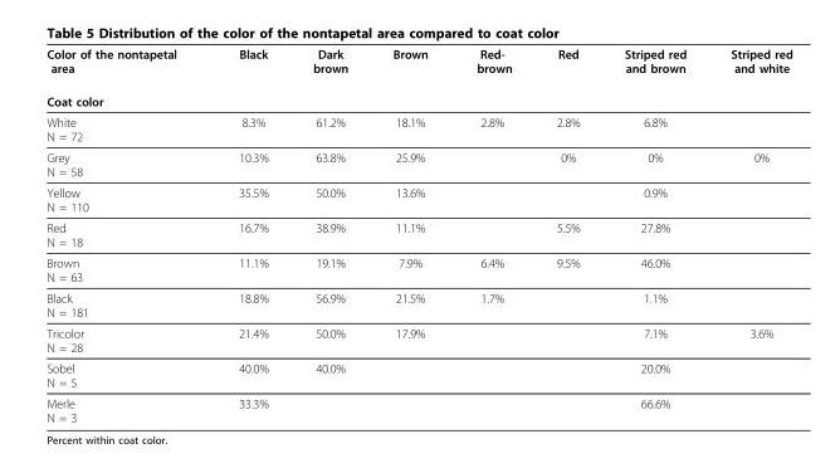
<table><thead><tr><td>Color of the nontapetal area</td><td>Black</td><td>Dark brown</td><td>Brown</td><td>Red- brown</td><td>Red</td><td>Striped red and brown</td><td>Striped red and white</td></tr><tr><td colspan="8">Coat color</td></tr></thead><tbody><tr><td>White N = 72</td><td>8.3%</td><td>61.2%</td><td>18.1%</td><td>2.8%</td><td>2.8%</td><td>6.8%</td><td></td></tr><tr><td>Grey N = 58</td><td>10.3%</td><td>63.8%</td><td>25.9%</td><td></td><td>0%</td><td>0%</td><td>0%</td></tr><tr><td>Yellow N = 110</td><td>35.5%</td><td>50.0%</td><td>13.6%</td><td></td><td></td><td>0.9%</td><td></td></tr><tr><td>Red N = 18</td><td>16.7%</td><td>38.9%</td><td>11.1%</td><td></td><td>5.5%</td><td>27.8%</td><td></td></tr><tr><td>Brown N = 63</td><td>11.1%</td><td>19.1%</td><td>7.9%</td><td>6.4%</td><td>9.5%</td><td>46.0%</td><td></td></tr><tr><td>Black N = 181</td><td>18.8%</td><td>56.9%</td><td>21.5%</td><td>1.7%</td><td></td><td>1.1%</td><td></td></tr><tr><td>Tricolor N = 28</td><td>21.4%</td><td>50.0%</td><td>17.9%</td><td></td><td></td><td>7.1%</td><td>3.6%</td></tr><tr><td>Sobel N = 5</td><td>40.0%</td><td>40.0%</td><td></td><td></td><td></td><td>20.0%</td><td></td></tr><tr><td>Merle N = 3</td><td>33.3%</td><td></td><td></td><td></td><td></td><td>66.6%</td><td></td></tr></tbody></table>